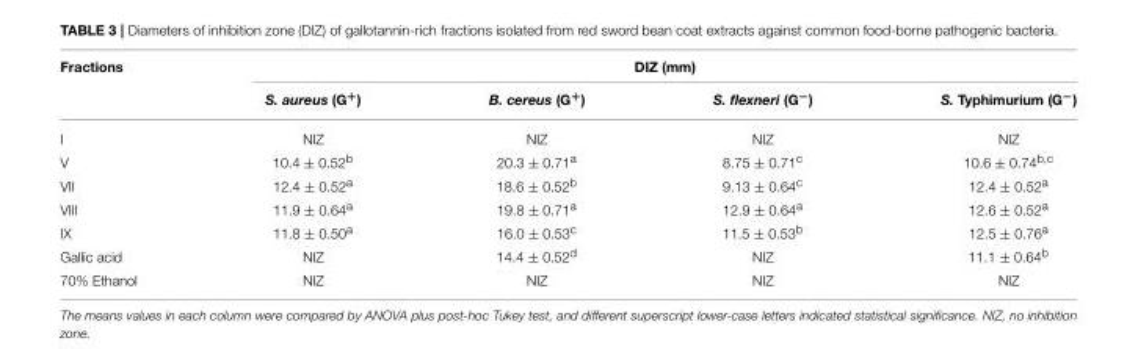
<table><thead><tr><td rowspan="2">Fractions</td><td colspan="4">DIZ (mm)</td></tr><tr><td>S. aureus (G<sup>+</sup>)</td><td>B. cereus (G<sup>+</sup>)</td><td>S. flexneri (G<sup>−</sup>)</td><td>S. Typhimurium (G<sup>−</sup>)</td></tr></thead><tbody><tr><td>I</td><td>NIZ</td><td>NIZ</td><td>NIZ</td><td>NIZ</td></tr><tr><td>V</td><td>10.4 ± 0.52<sup>b</sup></td><td>20.3 ± 0.71<sup>a</sup></td><td>8.75 ± 0.71<sup>c</sup></td><td>10.6 ± 0.74<sup>b,c</sup></td></tr><tr><td>VII</td><td>12.4 ± 0.52<sup>a</sup></td><td>18.6 ± 0.52<sup>b</sup></td><td>9.13 ± 0.64<sup>c</sup></td><td>12.4 ± 0.52<sup>a</sup></td></tr><tr><td>VIII</td><td>11.9 ± 0.64<sup>a</sup></td><td>19.8 ± 0.71<sup>a</sup></td><td>12.9 ± 0.64<sup>a</sup></td><td>12.6 ± 0.52<sup>a</sup></td></tr><tr><td>IX</td><td>11.8 ± 0.50<sup>a</sup></td><td>16.0 ± 0.53<sup>c</sup></td><td>11.5 ± 0.53<sup>b</sup></td><td>12.5 ± 0.76<sup>a</sup></td></tr><tr><td>Gallic acid</td><td>NIZ</td><td>14.4 ± 0.52<sup>d</sup></td><td>NIZ</td><td>11.1 ± 0.64<sup>b</sup></td></tr><tr><td>70% Ethanol</td><td>NIZ</td><td>NIZ</td><td>NIZ</td><td>NIZ</td></tr></tbody></table>